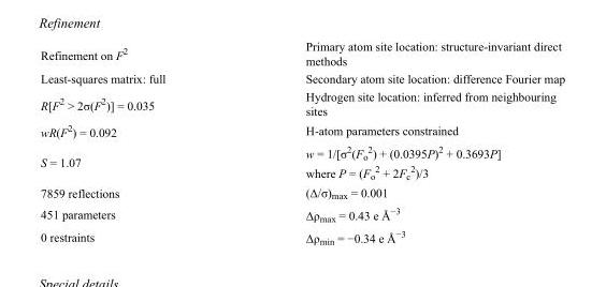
<table><tbody><tr><td>Refinement on F<sup>2</sup></td><td>Primary atom site location: structure-invariant direct methods</td></tr><tr><td>Least-squares matrix: full</td><td>Secondary atom site location: difference Fourier map</td></tr><tr><td>R[F<sup>2</sup> &gt; 2σ(F<sup>2</sup>)] = 0.035</td><td>Hydrogen site location: inferred from neighbouring sites</td></tr><tr><td>wR(F<sup>2</sup>) = 0.092</td><td>H-atom parameters constrained</td></tr><tr><td>S = 1.07</td><td>w = 1/[σ<sup>2</sup>(F<sub>o</sub> <sup>2</sup>) + (0.0395P)<sup>2</sup> + 0.3693P] where P = (F<sub>o</sub> <sup>2</sup> + 2F<sub>c</sub> <sup>2</sup>)/3</td></tr><tr><td>7859 reflections</td><td>(Δ/σ)<sub>max</sub> = 0.001</td></tr><tr><td>451 parameters</td><td>Δρ<sub>max</sub> = 0.43 e Å<sup>−3</sup></td></tr><tr><td>0 restraints</td><td>Δρ<sub>min</sub> = −0.34 e Å<sup>−3</sup></td></tr></tbody></table>